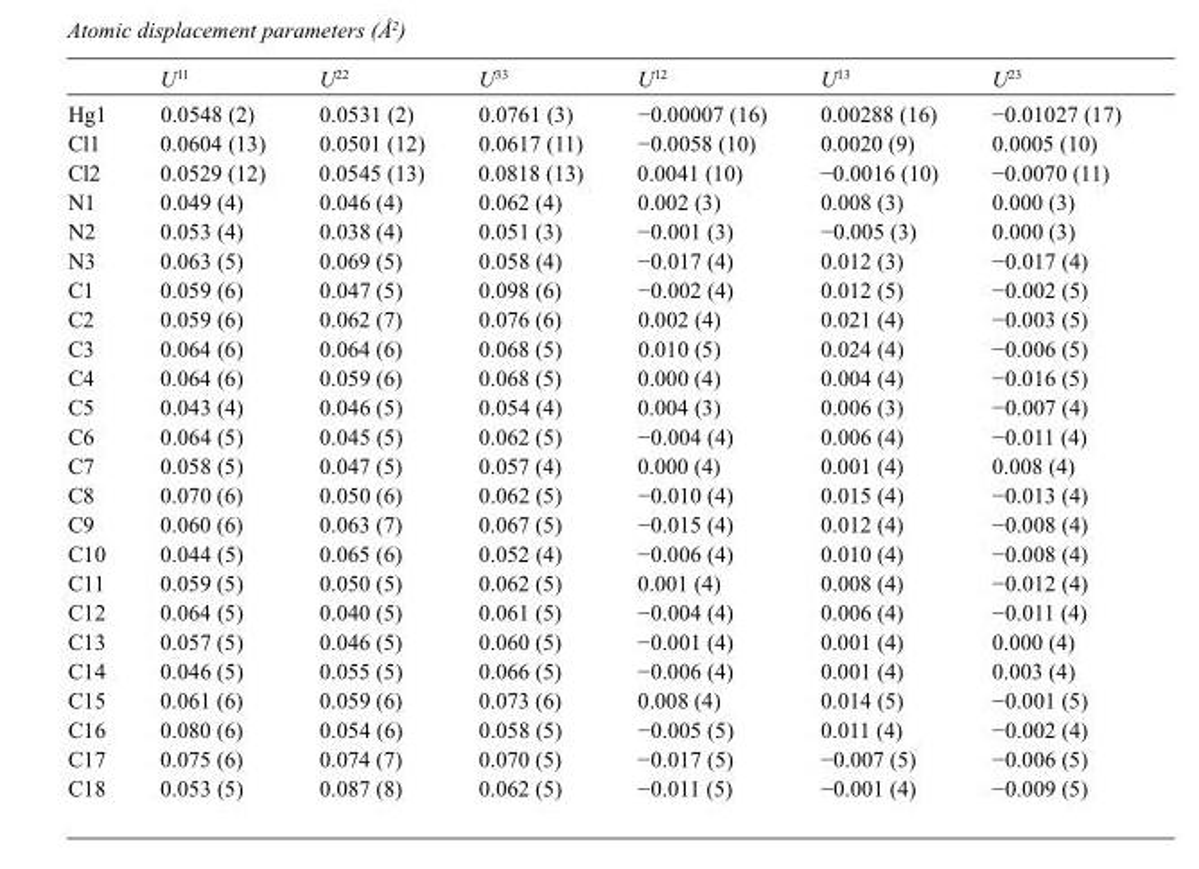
<table><thead><tr><td></td><td>U<sup>11</sup></td><td>U<sup>22</sup></td><td>U<sup>33</sup></td><td>U<sup>12</sup></td><td>U<sup>13</sup></td><td>U<sup>23</sup></td></tr></thead><tbody><tr><td>Hg1</td><td>0.0548 (2)</td><td>0.0531 (2)</td><td>0.0761 (3)</td><td>−0.00007 (16)</td><td>0.00288 (16)</td><td>−0.01027 (17)</td></tr><tr><td>Cl1</td><td>0.0604 (13)</td><td>0.0501 (12)</td><td>0.0617 (11)</td><td>−0.0058 (10)</td><td>0.0020 (9)</td><td>0.0005 (10)</td></tr><tr><td>Cl2</td><td>0.0529 (12)</td><td>0.0545 (13)</td><td>0.0818 (13)</td><td>0.0041 (10)</td><td>−0.0016 (10)</td><td>−0.0070 (11)</td></tr><tr><td>N1</td><td>0.049 (4)</td><td>0.046 (4)</td><td>0.062 (4)</td><td>0.002 (3)</td><td>0.008 (3)</td><td>0.000 (3)</td></tr><tr><td>N2</td><td>0.053 (4)</td><td>0.038 (4)</td><td>0.051 (3)</td><td>−0.001 (3)</td><td>−0.005 (3)</td><td>0.000 (3)</td></tr><tr><td>N3</td><td>0.063 (5)</td><td>0.069 (5)</td><td>0.058 (4)</td><td>−0.017 (4)</td><td>0.012 (3)</td><td>−0.017 (4)</td></tr><tr><td>C1</td><td>0.059 (6)</td><td>0.047 (5)</td><td>0.098 (6)</td><td>−0.002 (4)</td><td>0.012 (5)</td><td>−0.002 (5)</td></tr><tr><td>C2</td><td>0.059 (6)</td><td>0.062 (7)</td><td>0.076 (6)</td><td>0.002 (4)</td><td>0.021 (4)</td><td>−0.003 (5)</td></tr><tr><td>C3</td><td>0.064 (6)</td><td>0.064 (6)</td><td>0.068 (5)</td><td>0.010 (5)</td><td>0.024 (4)</td><td>−0.006 (5)</td></tr><tr><td>C4</td><td>0.064 (6)</td><td>0.059 (6)</td><td>0.068 (5)</td><td>0.000 (4)</td><td>0.004 (4)</td><td>−0.016 (5)</td></tr><tr><td>C5</td><td>0.043 (4)</td><td>0.046 (5)</td><td>0.054 (4)</td><td>0.004 (3)</td><td>0.006 (3)</td><td>−0.007 (4)</td></tr><tr><td>C6</td><td>0.064 (5)</td><td>0.045 (5)</td><td>0.062 (5)</td><td>−0.004 (4)</td><td>0.006 (4)</td><td>−0.011 (4)</td></tr><tr><td>C7</td><td>0.058 (5)</td><td>0.047 (5)</td><td>0.057 (4)</td><td>0.000 (4)</td><td>0.001 (4)</td><td>0.008 (4)</td></tr><tr><td>C8</td><td>0.070 (6)</td><td>0.050 (6)</td><td>0.062 (5)</td><td>−0.010 (4)</td><td>0.015 (4)</td><td>−0.013 (4)</td></tr><tr><td>C9</td><td>0.060 (6)</td><td>0.063 (7)</td><td>0.067 (5)</td><td>−0.015 (4)</td><td>0.012 (4)</td><td>−0.008 (4)</td></tr><tr><td>C10</td><td>0.044 (5)</td><td>0.065 (6)</td><td>0.052 (4)</td><td>−0.006 (4)</td><td>0.010 (4)</td><td>−0.008 (4)</td></tr><tr><td>C11</td><td>0.059 (5)</td><td>0.050 (5)</td><td>0.062 (5)</td><td>0.001 (4)</td><td>0.008 (4)</td><td>−0.012 (4)</td></tr><tr><td>C12</td><td>0.064 (5)</td><td>0.040 (5)</td><td>0.061 (5)</td><td>−0.004 (4)</td><td>0.006 (4)</td><td>−0.011 (4)</td></tr><tr><td>C13</td><td>0.057 (5)</td><td>0.046 (5)</td><td>0.060 (5)</td><td>−0.001 (4)</td><td>0.001 (4)</td><td>0.000 (4)</td></tr><tr><td>C14</td><td>0.046 (5)</td><td>0.055 (5)</td><td>0.066 (5)</td><td>−0.006 (4)</td><td>0.001 (4)</td><td>0.003 (4)</td></tr><tr><td>C15</td><td>0.061 (6)</td><td>0.059 (6)</td><td>0.073 (6)</td><td>0.008 (4)</td><td>0.014 (5)</td><td>−0.001 (5)</td></tr><tr><td>C16</td><td>0.080 (6)</td><td>0.054 (6)</td><td>0.058 (5)</td><td>−0.005 (5)</td><td>0.011 (4)</td><td>−0.002 (4)</td></tr><tr><td>C17</td><td>0.075 (6)</td><td>0.074 (7)</td><td>0.070 (5)</td><td>−0.017 (5)</td><td>−0.007 (5)</td><td>−0.006 (5)</td></tr><tr><td>C18</td><td>0.053 (5)</td><td>0.087 (8)</td><td>0.062 (5)</td><td>−0.011 (5)</td><td>−0.001 (4)</td><td>−0.009 (5)</td></tr></tbody></table>